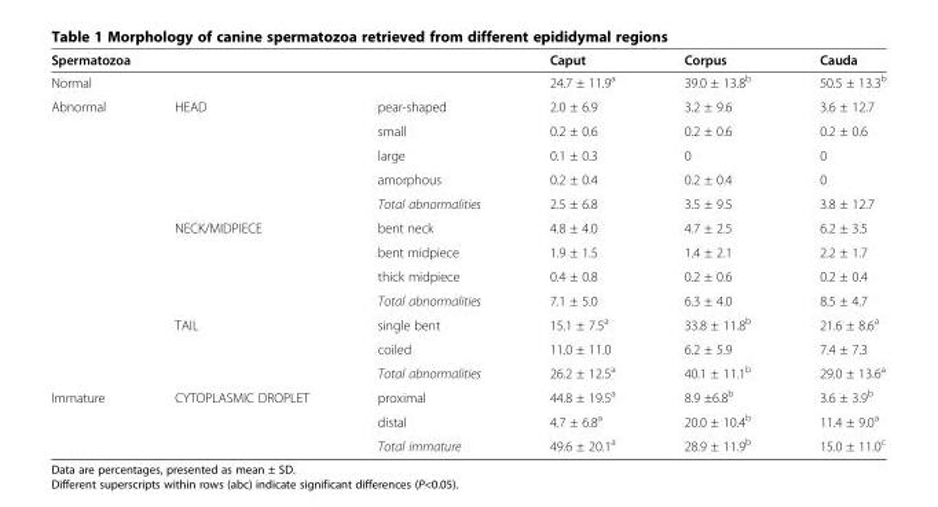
<table><thead><tr><td colspan="3">Spermatozoa</td><td rowspan="2">Caput 24.7 ± 11.9<sup>a</sup></td><td rowspan="2">Corpus 39.0 ± 13.8<sup>b</sup></td><td rowspan="2">Cauda 50.5 ± 13.3<sup>b</sup></td></tr><tr><td>Normal</td><td></td><td></td></tr></thead><tbody><tr><td rowspan="12">Abnormal</td><td rowspan="5">HEAD</td><td>pear-shaped</td><td>2.0 ± 6.9</td><td>3.2 ± 9.6</td><td>3.6 ± 12.7</td></tr><tr><td>small</td><td>0.2 ± 0.6</td><td>0.2 ± 0.6</td><td>0.2 ± 0.6</td></tr><tr><td>large</td><td>0.1 ± 0.3</td><td>0</td><td>0</td></tr><tr><td>amorphous</td><td>0.2 ± 0.4</td><td>0.2 ± 0.4</td><td>0</td></tr><tr><td>Total abnormalities</td><td>2.5 ± 6.8</td><td>3.5 ± 9.5</td><td>3.8 ± 12.7</td></tr><tr><td rowspan="4">NECK/MIDPIECE</td><td>bent neck</td><td>4.8 ± 4.0</td><td>4.7 ± 2.5</td><td>6.2 ± 3.5</td></tr><tr><td>bent midpiece</td><td>1.9 ± 1.5</td><td>1.4 ± 2.1</td><td>2.2 ± 1.7</td></tr><tr><td>thick midpiece</td><td>0.4 ± 0.8</td><td>0.2 ± 0.6</td><td>0.2 ± 0.4</td></tr><tr><td>Total abnormalities</td><td>7.1 ± 5.0</td><td>6.3 ± 4.0</td><td>8.5 ± 4.7</td></tr><tr><td rowspan="3">TAIL</td><td>single bent</td><td>15.1 ± 7.5<sup>a</sup></td><td>33.8 ± 11.8<sup>b</sup></td><td>21.6 ± 8.6<sup>a</sup></td></tr><tr><td>coiled</td><td>11.0 ± 11.0</td><td>6.2 ± 5.9</td><td>7.4 ± 7.3</td></tr><tr><td>Total abnormalities</td><td>26.2 ± 12.5<sup>a</sup></td><td>40.1 ± 11.1<sup>b</sup></td><td>29.0 ± 13.6<sup>a</sup></td></tr><tr><td rowspan="3">Immature</td><td rowspan="3">CYTOPLASMIC DROPLET</td><td>proximal</td><td>44.8 ± 19.5<sup>a</sup></td><td>8.9 ±6.8<sup>b</sup></td><td>3.6 ± 3.9<sup>b</sup></td></tr><tr><td>distal</td><td>4.7 ± 6.8<sup>a</sup></td><td>20.0 ± 10.4<sup>b</sup></td><td>11.4 ± 9.0<sup>a</sup></td></tr><tr><td>Total immature</td><td>49.6 ± 20.1<sup>a</sup></td><td>28.9 ± 11.9<sup>b</sup></td><td>15.0 ± 11.0<sup>c</sup></td></tr></tbody></table>